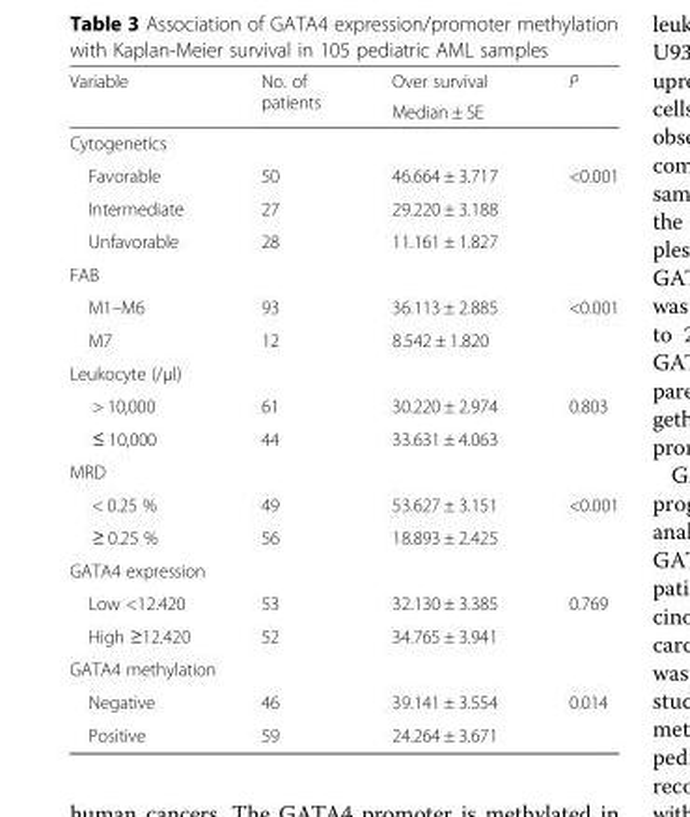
<table><thead><tr><td rowspan="2">Variable</td><td rowspan="2">No. of patients</td><td rowspan="2">Over survival Median ± SE</td><td rowspan="2">P</td></tr><tr></tr></thead><tbody><tr><td colspan="4">Cytogenetics</td></tr><tr><td>Favorable</td><td>50</td><td>46.664 ± 3.717</td><td>&lt;0.001</td></tr><tr><td>Intermediate</td><td>27</td><td>29.220 ± 3.188</td><td></td></tr><tr><td>Unfavorable</td><td>28</td><td>11.161 ± 1.827</td><td></td></tr><tr><td colspan="4">FAB</td></tr><tr><td>M1–M6</td><td>93</td><td>36.113 ± 2.885</td><td>&lt;0.001</td></tr><tr><td>M7</td><td>12</td><td>8.542 ± 1.820</td><td></td></tr><tr><td colspan="4">Leukocyte (/μl)</td></tr><tr><td>&gt; 10,000</td><td>61</td><td>30.220 ± 2.974</td><td>0.803</td></tr><tr><td>≤ 10,000</td><td>44</td><td>33.631 ± 4.063</td><td></td></tr><tr><td colspan="4">MRD</td></tr><tr><td>&lt; 0.25 %</td><td>49</td><td>53.627 ± 3.151</td><td>&lt;0.001</td></tr><tr><td>≥ 0.25 %</td><td>56</td><td>18.893 ± 2.425</td><td></td></tr><tr><td colspan="4">GATA4 expression</td></tr><tr><td>Low &lt;12.420</td><td>53</td><td>32.130 ± 3.385</td><td>0.769</td></tr><tr><td>High ≥12.420</td><td>52</td><td>34.765 ± 3.941</td><td></td></tr><tr><td colspan="4">GATA4 methylation</td></tr><tr><td>Negative</td><td>46</td><td>39.141 ± 3.554</td><td>0.014</td></tr><tr><td>Positive</td><td>59</td><td>24.264 ± 3.671</td><td></td></tr></tbody></table>